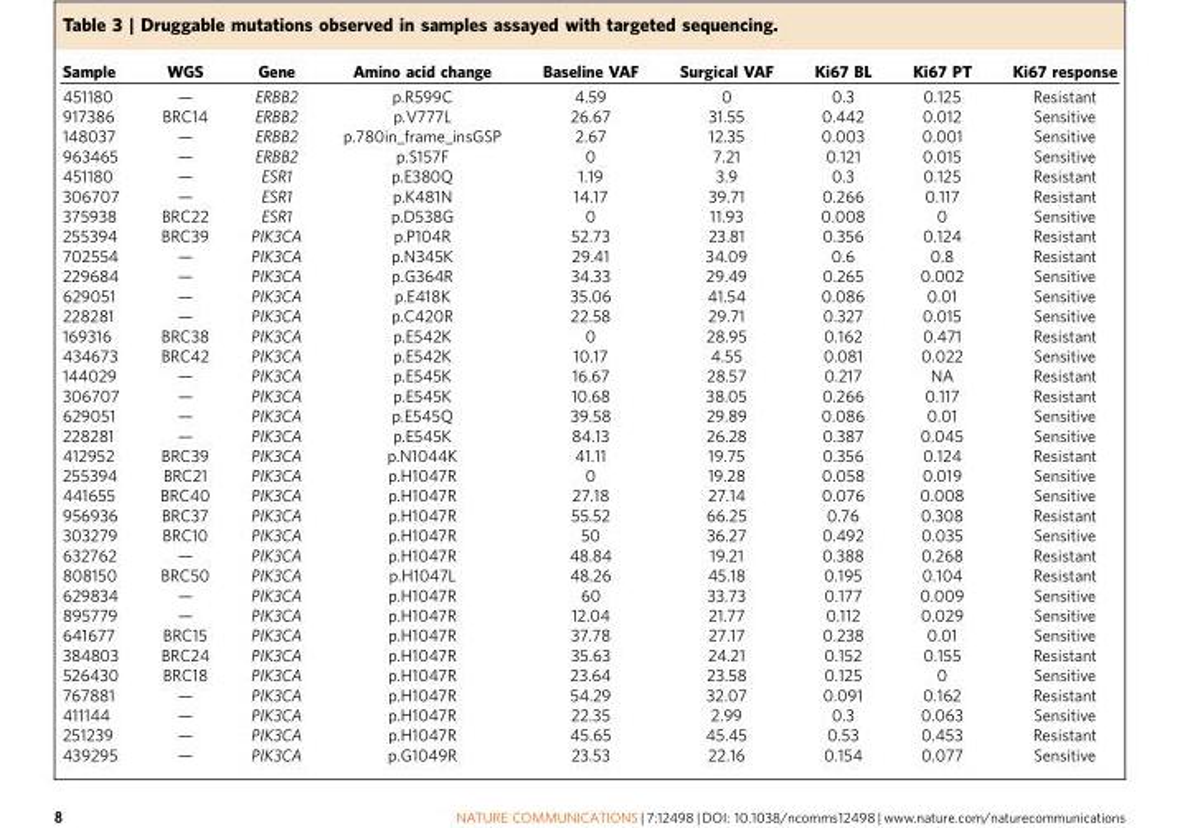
<table><thead><tr><td>Sample</td><td>WGS</td><td>Gene</td><td>Amino acid change</td><td>Baseline VAF</td><td>Surgical VAF</td><td>Ki67 BL</td><td>Ki67 PT</td><td>Ki67 response</td></tr></thead><tbody><tr><td>451180</td><td>—</td><td>ERBB2</td><td>p.R599C</td><td>4.59</td><td>0</td><td>0.3</td><td>0.125</td><td>Resistant</td></tr><tr><td>917386</td><td>BRC14</td><td>ERBB2</td><td>p.V777L</td><td>26.67</td><td>31.55</td><td>0.442</td><td>0.012</td><td>Sensitive</td></tr><tr><td>148037</td><td>—</td><td>ERBB2</td><td>p.780in_frame_insGSP</td><td>2.67</td><td>12.35</td><td>0.003</td><td>0.001</td><td>Sensitive</td></tr><tr><td>963465</td><td>—</td><td>ERBB2</td><td>p.S157F</td><td>0</td><td>7.21</td><td>0.121</td><td>0.015</td><td>Sensitive</td></tr><tr><td>451180</td><td>—</td><td>ESR1</td><td>p.E380Q</td><td>1.19</td><td>3.9</td><td>0.3</td><td>0.125</td><td>Resistant</td></tr><tr><td>306707</td><td>—</td><td>ESR1</td><td>p.K481N</td><td>14.17</td><td>39.71</td><td>0.266</td><td>0.117</td><td>Resistant</td></tr><tr><td>375938</td><td>BRC22</td><td>ESR1</td><td>p.D538G</td><td>0</td><td>11.93</td><td>0.008</td><td>0</td><td>Sensitive</td></tr><tr><td>255394</td><td>BRC39</td><td>PIK3CA</td><td>p.P104R</td><td>52.73</td><td>23.81</td><td>0.356</td><td>0.124</td><td>Resistant</td></tr><tr><td>702554</td><td>—</td><td>PIK3CA</td><td>p.N345K</td><td>29.41</td><td>34.09</td><td>0.6</td><td>0.8</td><td>Resistant</td></tr><tr><td>229684</td><td>—</td><td>PIK3CA</td><td>p.G364R</td><td>34.33</td><td>29.49</td><td>0.265</td><td>0.002</td><td>Sensitive</td></tr><tr><td>629051</td><td>—</td><td>PIK3CA</td><td>p.E418K</td><td>35.06</td><td>41.54</td><td>0.086</td><td>0.01</td><td>Sensitive</td></tr><tr><td>228281</td><td>—</td><td>PIK3CA</td><td>p.C420R</td><td>22.58</td><td>29.71</td><td>0.327</td><td>0.015</td><td>Sensitive</td></tr><tr><td>169316</td><td>BRC38</td><td>PIK3CA</td><td>p.E542K</td><td>0</td><td>28.95</td><td>0.162</td><td>0.471</td><td>Resistant</td></tr><tr><td>434673</td><td>BRC42</td><td>PIK3CA</td><td>p.E542K</td><td>10.17</td><td>4.55</td><td>0.081</td><td>0.022</td><td>Sensitive</td></tr><tr><td>144029</td><td>—</td><td>PIK3CA</td><td>p.E545K</td><td>16.67</td><td>28.57</td><td>0.217</td><td>NA</td><td>Resistant</td></tr><tr><td>306707</td><td>—</td><td>PIK3CA</td><td>p.E545K</td><td>10.68</td><td>38.05</td><td>0.266</td><td>0.117</td><td>Resistant</td></tr><tr><td>629051</td><td>—</td><td>PIK3CA</td><td>p.E545Q</td><td>39.58</td><td>29.89</td><td>0.086</td><td>0.01</td><td>Sensitive</td></tr><tr><td>228281</td><td>—</td><td>PIK3CA</td><td>p.E545K</td><td>84.13</td><td>26.28</td><td>0.387</td><td>0.045</td><td>Sensitive</td></tr><tr><td>412952</td><td>BRC39</td><td>PIK3CA</td><td>p.N1044K</td><td>41.11</td><td>19.75</td><td>0.356</td><td>0.124</td><td>Resistant</td></tr><tr><td>255394</td><td>BRC21</td><td>PIK3CA</td><td>p.H1047R</td><td>0</td><td>19.28</td><td>0.058</td><td>0.019</td><td>Sensitive</td></tr><tr><td>441655</td><td>BRC40</td><td>PIK3CA</td><td>p.H1047R</td><td>27.18</td><td>27.14</td><td>0.076</td><td>0.008</td><td>Sensitive</td></tr><tr><td>956936</td><td>BRC37</td><td>PIK3CA</td><td>p.H1047R</td><td>55.52</td><td>66.25</td><td>0.76</td><td>0.308</td><td>Resistant</td></tr><tr><td>303279</td><td>BRC10</td><td>PIK3CA</td><td>p.H1047R</td><td>50</td><td>36.27</td><td>0.492</td><td>0.035</td><td>Sensitive</td></tr><tr><td>632762</td><td>—</td><td>PIK3CA</td><td>p.H1047R</td><td>48.84</td><td>19.21</td><td>0.388</td><td>0.268</td><td>Resistant</td></tr><tr><td>808150</td><td>BRC50</td><td>PIK3CA</td><td>p.H1047L</td><td>48.26</td><td>45.18</td><td>0.195</td><td>0.104</td><td>Resistant</td></tr><tr><td>629834</td><td>—</td><td>PIK3CA</td><td>p.H1047R</td><td>60</td><td>33.73</td><td>0.177</td><td>0.009</td><td>Sensitive</td></tr><tr><td>895779</td><td>—</td><td>PIK3CA</td><td>p.H1047R</td><td>12.04</td><td>21.77</td><td>0.112</td><td>0.029</td><td>Sensitive</td></tr><tr><td>641677</td><td>BRC15</td><td>PIK3CA</td><td>p.H1047R</td><td>37.78</td><td>27.17</td><td>0.238</td><td>0.01</td><td>Sensitive</td></tr><tr><td>384803</td><td>BRC24</td><td>PIK3CA</td><td>p.H1047R</td><td>35.63</td><td>24.21</td><td>0.152</td><td>0.155</td><td>Resistant</td></tr><tr><td>526430</td><td>BRC18</td><td>PIK3CA</td><td>p.H1047R</td><td>23.64</td><td>23.58</td><td>0.125</td><td>0</td><td>Sensitive</td></tr><tr><td>767881</td><td>—</td><td>PIK3CA</td><td>p.H1047R</td><td>54.29</td><td>32.07</td><td>0.091</td><td>0.162</td><td>Resistant</td></tr><tr><td>411144</td><td>—</td><td>PIK3CA</td><td>p.H1047R</td><td>22.35</td><td>2.99</td><td>0.3</td><td>0.063</td><td>Sensitive</td></tr><tr><td>251239</td><td>—</td><td>PIK3CA</td><td>p.H1047R</td><td>45.65</td><td>45.45</td><td>0.53</td><td>0.453</td><td>Resistant</td></tr><tr><td>439295</td><td>—</td><td>PIK3CA</td><td>p.G1049R</td><td>23.53</td><td>22.16</td><td>0.154</td><td>0.077</td><td>Sensitive</td></tr></tbody></table>